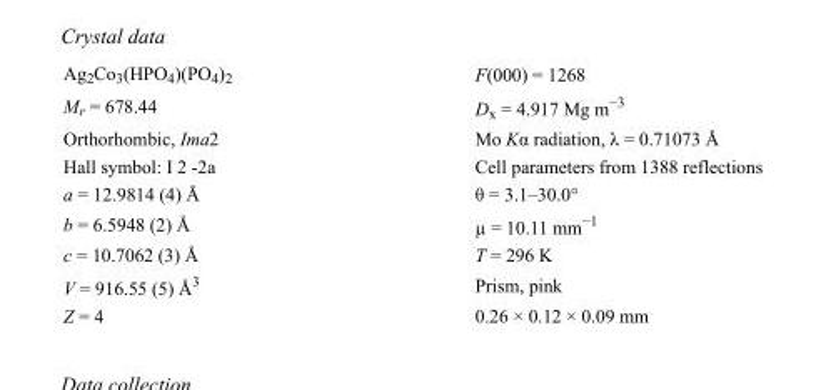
<table><tbody><tr><td>Ag<sub>2</sub>Co<sub>3</sub>(HPO<sub>4</sub>)(PO<sub>4</sub>)<sub>2</sub></td><td>F(000) = 1268</td></tr><tr><td>M<sub>r</sub> = 678.44</td><td>D<sub>x</sub> = 4.917 Mg m<sup>−3</sup></td></tr><tr><td>Orthorhombic, Ima2</td><td>Mo Kα radiation, λ = 0.71073 Å</td></tr><tr><td>Hall symbol: I 2 -2a</td><td>Cell parameters from 1388 reflections</td></tr><tr><td>a = 12.9814 (4) Å</td><td>θ = 3.1–30.0°</td></tr><tr><td>b = 6.5948 (2) Å</td><td>µ = 10.11 mm<sup>−1</sup></td></tr><tr><td>c = 10.7062 (3) Å</td><td>T = 296 K</td></tr><tr><td>V = 916.55 (5) Å<sup>3</sup></td><td>Prism, pink</td></tr><tr><td>Z = 4</td><td>0.26 × 0.12 × 0.09 mm</td></tr></tbody></table>